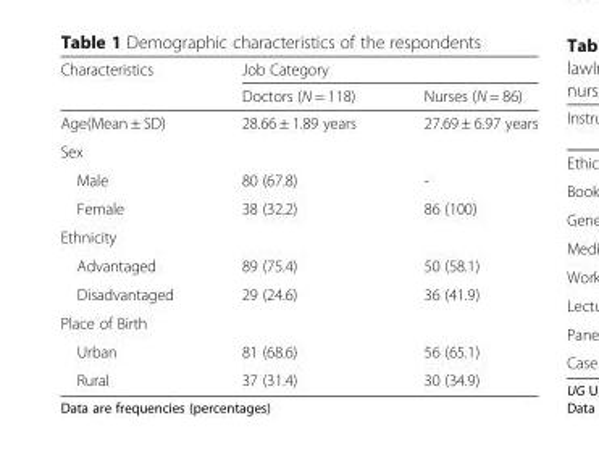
<table><thead><tr><td rowspan="2">Characteristics</td><td colspan="2">Job Category</td></tr><tr><td>Doctors (N = 118)</td><td>Nurses (N = 86)</td></tr></thead><tbody><tr><td>Age(Mean ± SD)</td><td>28.66 ± 1.89 years</td><td>27.69 ± 6.97 years</td></tr><tr><td colspan="3">Sex</td></tr><tr><td>Male</td><td>80 (67.8)</td><td>-</td></tr><tr><td>Female</td><td>38 (32.2)</td><td>86 (100)</td></tr><tr><td colspan="3">Ethnicity</td></tr><tr><td>Advantaged</td><td>89 (75.4)</td><td>50 (58.1)</td></tr><tr><td>Disadvantaged</td><td>29 (24.6)</td><td>36 (41.9)</td></tr><tr><td colspan="3">Place of Birth</td></tr><tr><td>Urban</td><td>81 (68.6)</td><td>56 (65.1)</td></tr><tr><td>Rural</td><td>37 (31.4)</td><td>30 (34.9)</td></tr></tbody></table>